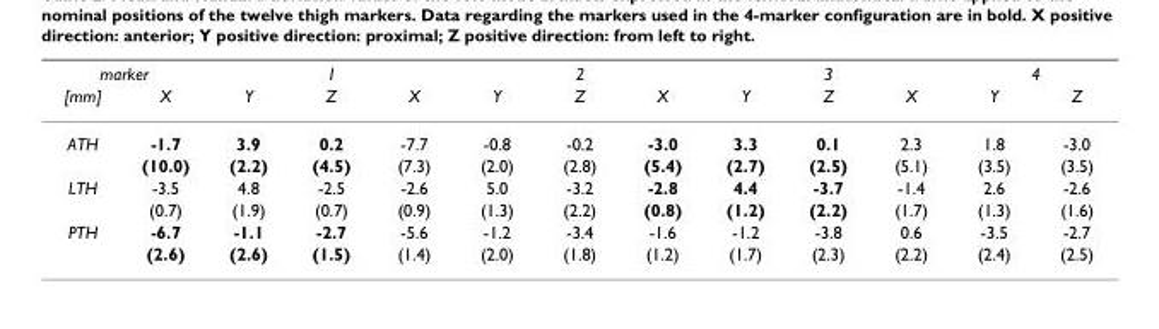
<table><thead><tr><td colspan="2">marker</td><td colspan="3">1</td><td colspan="3">2</td><td colspan="3">3</td><td colspan="2">4</td></tr><tr><td>[mm]</td><td>X</td><td>Y</td><td>Z</td><td>X</td><td>Y</td><td>Z</td><td>X</td><td>Y</td><td>Z</td><td>X</td><td>Y</td><td>Z</td></tr></thead><tbody><tr><td rowspan="2">ATH</td><td>-1.7</td><td>3.9</td><td>0.2</td><td>-7.7</td><td>-0.8</td><td>-0.2</td><td>-3.0</td><td>3.3</td><td>0.1</td><td>2.3</td><td>1.8</td><td>-3.0</td></tr><tr><td>(10.0)</td><td>(2.2)</td><td>(4.5)</td><td>(7.3)</td><td>(2.0)</td><td>(2.8)</td><td>(5.4)</td><td>(2.7)</td><td>(2.5)</td><td>(5.1)</td><td>(3.5)</td><td>(3.5)</td></tr><tr><td rowspan="2">LTH</td><td>-3.5</td><td>4.8</td><td>-2.5</td><td>-2.6</td><td>5.0</td><td>-3.2</td><td>-2.8</td><td>4.4</td><td>-3.7</td><td>-1.4</td><td>2.6</td><td>-2.6</td></tr><tr><td>(0.7)</td><td>(1.9)</td><td>(0.7)</td><td>(0.9)</td><td>(1.3)</td><td>(2.2)</td><td>(0.8)</td><td>(1.2)</td><td>(2.2)</td><td>(1.7)</td><td>(1.3)</td><td>(1.6)</td></tr><tr><td rowspan="2">PTH</td><td>-6.7</td><td>-1.1</td><td>-2.7</td><td>-5.6</td><td>-1.2</td><td>-3.4</td><td>-1.6</td><td>-1.2</td><td>-3.8</td><td>0.6</td><td>-3.5</td><td>-2.7</td></tr><tr><td>(2.6)</td><td>(2.6)</td><td>(1.5)</td><td>(1.4)</td><td>(2.0)</td><td>(1.8)</td><td>(1.2)</td><td>(1.7)</td><td>(2.3)</td><td>(2.2)</td><td>(2.4)</td><td>(2.5)</td></tr></tbody></table>